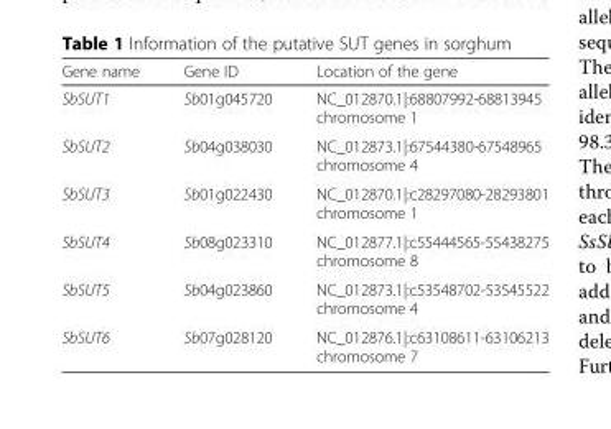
<table><thead><tr><td>Gene name</td><td>Gene ID</td><td>Location of the gene</td></tr></thead><tbody><tr><td>SbSUT1</td><td>Sb01g045720</td><td>NC_012870.1|:68807992-68813945 chromosome 1</td></tr><tr><td>SbSUT2</td><td>Sb04g038030</td><td>NC_012873.1|:67544380-67548965 chromosome 4</td></tr><tr><td>SbSUT3</td><td>Sb01g022430</td><td>NC_012870.1|:c28297080-28293801 chromosome 1</td></tr><tr><td>SbSUT4</td><td>Sb08g023310</td><td>NC_012877.1|:c55444565-55438275 chromosome 8</td></tr><tr><td>SbSUT5</td><td>Sb04g023860</td><td>NC_012873.1|:c53548702-53545522 chromosome 4</td></tr><tr><td>SbSUT6</td><td>Sb07g028120</td><td>NC_012876.1|:c63108611-63106213 chromosome 7</td></tr></tbody></table>